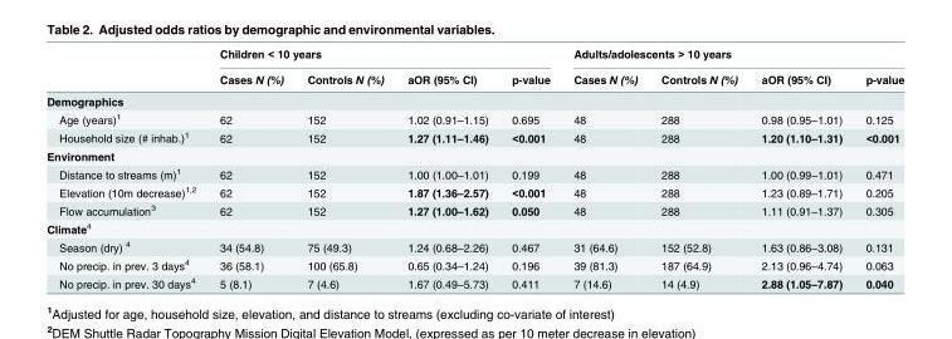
<table><thead><tr><td rowspan="2"></td><td colspan="4">Children &lt; 10 years</td><td colspan="4">Adults/adolescents &gt; 10 years</td></tr><tr><td>Cases N (%)</td><td>Controls N (%)</td><td>aOR (95% CI)</td><td>p-value</td><td>Cases N (%)</td><td>Controls N (%)</td><td>aOR (95% CI)</td><td>p-value</td></tr></thead><tbody><tr><td colspan="9">Demographics</td></tr><tr><td>Age (years)<sup>1</sup></td><td>62</td><td>152</td><td>1.02 (0.91–1.15)</td><td>0.695</td><td>48</td><td>288</td><td>0.98 (0.95–1.01)</td><td>0.125</td></tr><tr><td>Household size (# inhab.)<sup>1</sup></td><td>62</td><td>152</td><td>1.27 (1.11–1.46)</td><td>&lt;0.001</td><td>48</td><td>288</td><td>1.20 (1.10–1.31)</td><td>&lt;0.001</td></tr><tr><td colspan="9">Environment</td></tr><tr><td>Distance to streams (m)<sup>1</sup></td><td>62</td><td>152</td><td>1.00 (1.00–1.01)</td><td>0.199</td><td>48</td><td>288</td><td>1.00 (0.99–1.01)</td><td>0.471</td></tr><tr><td>Elevation (10m decrease)<sup>1,2</sup></td><td>62</td><td>152</td><td>1.87 (1.36–2.57)</td><td>&lt;0.001</td><td>48</td><td>288</td><td>1.23 (0.89–1.71)</td><td>0.205</td></tr><tr><td>Flow accumulation<sup>3</sup></td><td>62</td><td>152</td><td>1.27 (1.00–1.62)</td><td>0.050</td><td>48</td><td>288</td><td>1.11 (0.91–1.37)</td><td>0.305</td></tr><tr><td colspan="9">Climate<sup>4</sup></td></tr><tr><td>Season (dry) <sup>4</sup></td><td>34 (54.8)</td><td>75 (49.3)</td><td>1.24 (0.68–2.26)</td><td>0.467</td><td>31 (64.6)</td><td>152 (52.8)</td><td>1.63 (0.86–3.08)</td><td>0.131</td></tr><tr><td>No precip. in prev. 3 days<sup>4</sup></td><td>36 (58.1)</td><td>100 (65.8)</td><td>0.65 (0.34–1.24)</td><td>0.196</td><td>39 (81.3)</td><td>187 (64.9)</td><td>2.13 (0.96–4.74)</td><td>0.063</td></tr><tr><td>No precip. in prev. 30 days<sup>4</sup></td><td>5 (8.1)</td><td>7 (4.6)</td><td>1.67 (0.49–5.73)</td><td>0.411</td><td>7 (14.6)</td><td>14 (4.9)</td><td>2.88 (1.05–7.87)</td><td>0.040</td></tr></tbody></table>